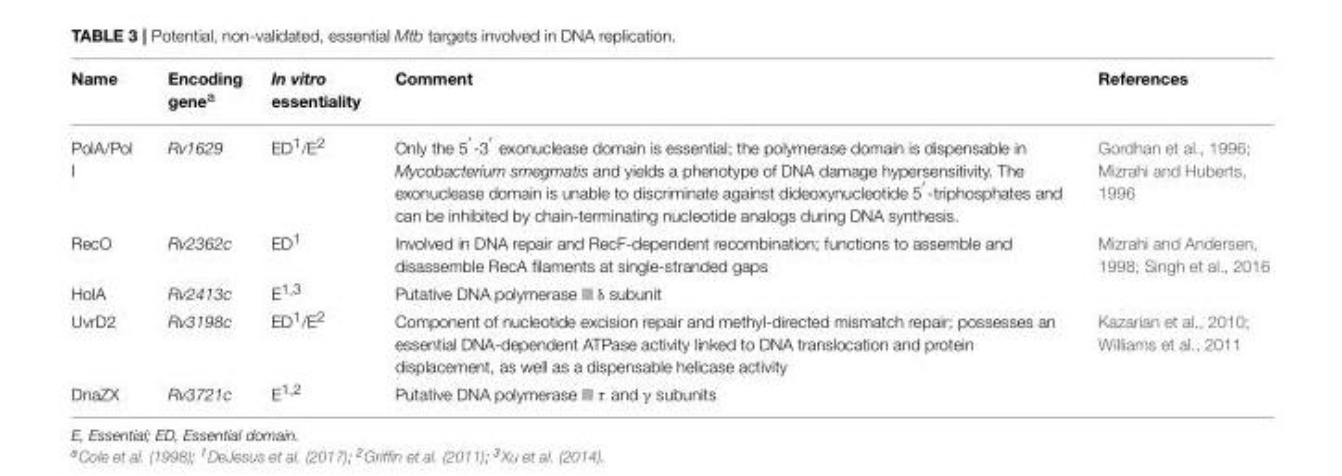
<table><thead><tr><td>Name</td><td>Encoding gene<sup>a</sup></td><td>In vitro essentiality</td><td>Comment</td><td>References</td></tr></thead><tbody><tr><td>PolA/Pol I</td><td>Rv1629</td><td>ED<sup>1</sup>/E<sup>2</sup></td><td>Only the 5 ′-3 ′ exonuclease domain is essential; the polymerase domain is dispensable in Mycobacterium smegmatis and yields a phenotype of DNA damage hypersensitivity. The exonuclease domain is unable to discriminate against dideoxynucleotide 5 ′-triphosphates and can be inhibited by chain-terminating nucleotide analogs during DNA synthesis.</td><td>Gordhan et al., 1996; Mizrahi and Huberts, 1996</td></tr><tr><td>RecO</td><td>Rv2362c</td><td>ED<sup>1</sup></td><td>Involved in DNA repair and RecF-dependent recombination; functions to assemble and disassemble RecA filaments at single-stranded gaps</td><td>Mizrahi and Andersen, 1998; Singh et al., 2016</td></tr><tr><td>HolA</td><td>Rv2413c</td><td>E<sup>1,3</sup></td><td>Putative DNA polymerase III δ subunit</td><td></td></tr><tr><td>UvrD2</td><td>Rv3198c</td><td>ED<sup>1</sup>/E<sup>2</sup></td><td>Component of nucleotide excision repair and methyl-directed mismatch repair; possesses an essential DNA-dependent ATPase activity linked to DNA translocation and protein displacement, as well as a dispensable helicase activity</td><td>Kazarian et al., 2010; Williams et al., 2011</td></tr><tr><td>DnaZX</td><td>Rv3721c</td><td>E<sup>1,2</sup></td><td>Putative DNA polymerase III τ and γ subunits</td><td></td></tr></tbody></table>